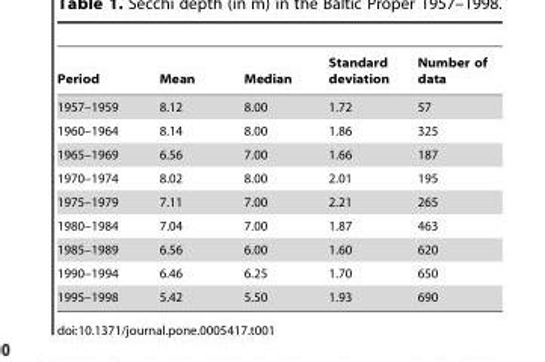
<table><thead><tr><td>Period</td><td>Mean</td><td>Median</td><td>Standard deviation</td><td>Number of data</td></tr></thead><tbody><tr><td>1957–1959</td><td>8.12</td><td>8.00</td><td>1.72</td><td>57</td></tr><tr><td>1960–1964</td><td>8.14</td><td>8.00</td><td>1.86</td><td>325</td></tr><tr><td>1965–1969</td><td>6.56</td><td>7.00</td><td>1.66</td><td>187</td></tr><tr><td>1970–1974</td><td>8.02</td><td>8.00</td><td>2.01</td><td>195</td></tr><tr><td>1975–1979</td><td>7.11</td><td>7.00</td><td>2.21</td><td>265</td></tr><tr><td>1980–1984</td><td>7.04</td><td>7.00</td><td>1.87</td><td>463</td></tr><tr><td>1985–1989</td><td>6.56</td><td>6.00</td><td>1.60</td><td>620</td></tr><tr><td>1990–1994</td><td>6.46</td><td>6.25</td><td>1.70</td><td>650</td></tr><tr><td>1995–1998</td><td>5.42</td><td>5.50</td><td>1.93</td><td>690</td></tr></tbody></table>